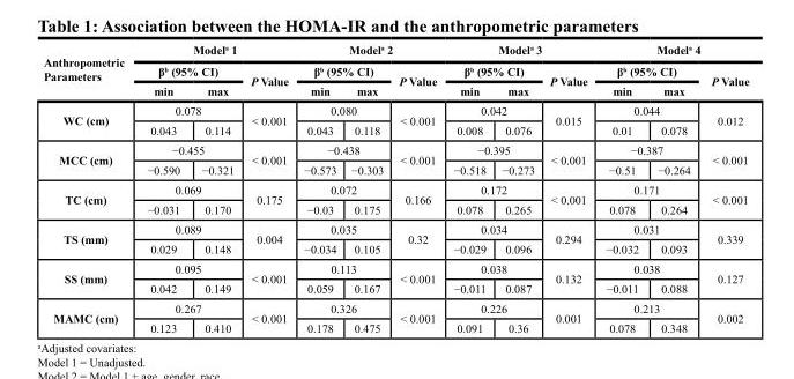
<table><thead><tr><td rowspan="3">Anthropometric Parameters</td><td colspan="3">Model<sup>a</sup> 1</td><td colspan="3">Model<sup>a</sup> 2</td><td colspan="3">Model<sup>a</sup> 3</td><td colspan="3">Model<sup>a</sup> 4</td></tr><tr><td colspan="2">β<sup>b</sup> (95% CI)</td><td rowspan="2">P Value</td><td colspan="2">β<sup>b</sup> (95% CI)</td><td rowspan="2">P Value</td><td colspan="2">β<sup>b</sup> (95% CI)</td><td rowspan="2">P Value</td><td colspan="2">β<sup>b</sup> (95% CI)</td><td rowspan="2">P Value</td></tr><tr><td>min</td><td>max</td><td>min</td><td>max</td><td>min</td><td>max</td><td>min</td><td>max</td></tr></thead><tbody><tr><td rowspan="2">WC (cm)</td><td colspan="2">0.078</td><td rowspan="2">&lt; 0.001</td><td colspan="2">0.080</td><td rowspan="2">&lt; 0.001</td><td colspan="2">0.042</td><td rowspan="2">0.015</td><td colspan="2">0.044</td><td rowspan="2">0.012</td></tr><tr><td>0.043</td><td>0.114</td><td>0.043</td><td>0.118</td><td>0.008</td><td>0.076</td><td>0.01</td><td>0.078</td></tr><tr><td rowspan="2">MCC (cm)</td><td colspan="2">−0.455</td><td rowspan="2">&lt; 0.001</td><td colspan="2">−0.438</td><td rowspan="2">&lt; 0.001</td><td colspan="2">−0.395</td><td rowspan="2">&lt; 0.001</td><td colspan="2">−0.387</td><td rowspan="2">&lt; 0.001</td></tr><tr><td>−0.590</td><td>−0.321</td><td>−0.573</td><td>−0.303</td><td>−0.518</td><td>−0.273</td><td>−0.51</td><td>−0.264</td></tr><tr><td rowspan="2">TC (cm)</td><td colspan="2">0.069</td><td rowspan="2">0.175</td><td colspan="2">0.072</td><td rowspan="2">0.166</td><td colspan="2">0.172</td><td rowspan="2">&lt; 0.001</td><td colspan="2">0.171</td><td rowspan="2">&lt; 0.001</td></tr><tr><td>−0.031</td><td>0.170</td><td>−0.03</td><td>0.175</td><td>0.078</td><td>0.265</td><td>0.078</td><td>0.264</td></tr><tr><td rowspan="2">TS (mm)</td><td colspan="2">0.089</td><td rowspan="2">0.004</td><td colspan="2">0.035</td><td rowspan="2">0.32</td><td colspan="2">0.034</td><td rowspan="2">0.294</td><td colspan="2">0.031</td><td rowspan="2">0.339</td></tr><tr><td>0.029</td><td>0.148</td><td>−0.034</td><td>0.105</td><td>−0.029</td><td>0.096</td><td>−0.032</td><td>0.093</td></tr><tr><td rowspan="2">SS (mm)</td><td colspan="2">0.095</td><td rowspan="2">&lt; 0.001</td><td colspan="2">0.113</td><td rowspan="2">&lt; 0.001</td><td colspan="2">0.038</td><td rowspan="2">0.132</td><td colspan="2">0.038</td><td rowspan="2">0.127</td></tr><tr><td>0.042</td><td>0.149</td><td>0.059</td><td>0.167</td><td>−0.011</td><td>0.087</td><td>−0.011</td><td>0.088</td></tr><tr><td rowspan="2">MAMC (cm)</td><td colspan="2">0.267</td><td rowspan="2">&lt; 0.001</td><td colspan="2">0.326</td><td rowspan="2">&lt; 0.001</td><td colspan="2">0.226</td><td rowspan="2">0.001</td><td colspan="2">0.213</td><td rowspan="2">0.002</td></tr><tr><td>0.123</td><td>0.410</td><td>0.178</td><td>0.475</td><td>0.091</td><td>0.36</td><td>0.078</td><td>0.348</td></tr></tbody></table>